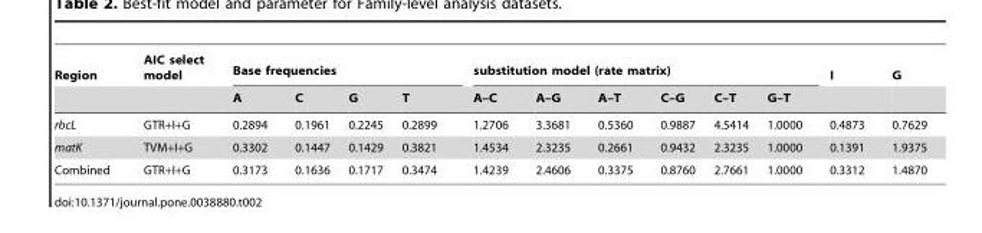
<table><thead><tr><td rowspan="2">Region</td><td rowspan="2">AIC select model</td><td colspan="4">Base frequencies</td><td colspan="6">substitution model (rate matrix)</td><td rowspan="2">I</td><td rowspan="2">G</td></tr><tr><td>A</td><td>C</td><td>G</td><td>T</td><td>A–C</td><td>A–G</td><td>A–T</td><td>C–G</td><td>C–T</td><td>G–T</td></tr></thead><tbody><tr><td>rbcL</td><td>GTR+I+G</td><td>0.2894</td><td>0.1961</td><td>0.2245</td><td>0.2899</td><td>1.2706</td><td>3.3681</td><td>0.5360</td><td>0.9887</td><td>4.5414</td><td>1.0000</td><td>0.4873</td><td>0.7629</td></tr><tr><td>matK</td><td>TVM+I+G</td><td>0.3302</td><td>0.1447</td><td>0.1429</td><td>0.3821</td><td>1.4534</td><td>2.3235</td><td>0.2661</td><td>0.9432</td><td>2.3235</td><td>1.0000</td><td>0.1391</td><td>1.9375</td></tr><tr><td>Combined</td><td>GTR+I+G</td><td>0.3173</td><td>0.1636</td><td>0.1717</td><td>0.3474</td><td>1.4239</td><td>2.4606</td><td>0.3375</td><td>0.8760</td><td>2.7661</td><td>1.0000</td><td>0.3312</td><td>1.4870</td></tr></tbody></table>